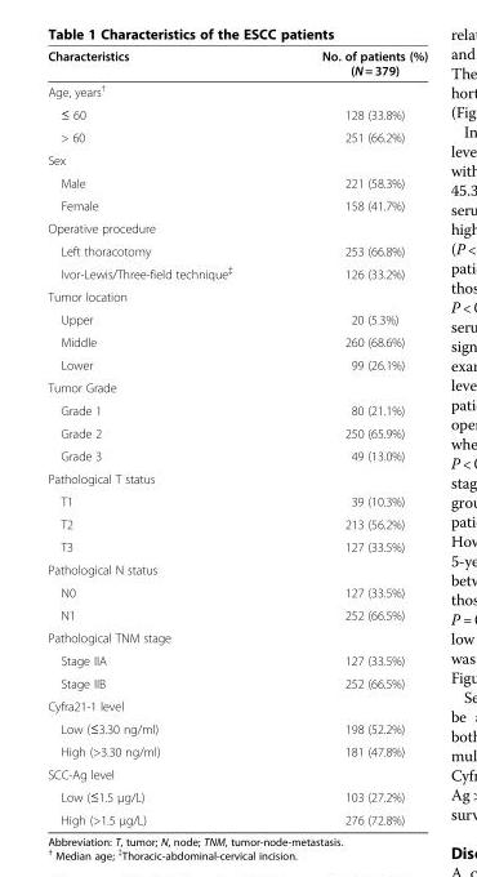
<table><thead><tr><td>Characteristics</td><td>No. of patients (%) (N = 379)</td></tr></thead><tbody><tr><td colspan="2">Age, years<sup>†</sup></td></tr><tr><td>≤ 60</td><td>128 (33.8%)</td></tr><tr><td>&gt; 60</td><td>251 (66.2%)</td></tr><tr><td colspan="2">Sex</td></tr><tr><td>Male</td><td>221 (58.3%)</td></tr><tr><td>Female</td><td>158 (41.7%)</td></tr><tr><td colspan="2">Operative procedure</td></tr><tr><td>Left thoracotomy</td><td>253 (66.8%)</td></tr><tr><td>Ivor-Lewis/Three-field technique<sup>‡</sup></td><td>126 (33.2%)</td></tr><tr><td colspan="2">Tumor location</td></tr><tr><td>Upper</td><td>20 (5.3%)</td></tr><tr><td>Middle</td><td>260 (68.6%)</td></tr><tr><td>Lower</td><td>99 (26.1%)</td></tr><tr><td colspan="2">Tumor Grade</td></tr><tr><td>Grade 1</td><td>80 (21.1%)</td></tr><tr><td>Grade 2</td><td>250 (65.9%)</td></tr><tr><td>Grade 3</td><td>49 (13.0%)</td></tr><tr><td colspan="2">Pathological T status</td></tr><tr><td>T1</td><td>39 (10.3%)</td></tr><tr><td>T2</td><td>213 (56.2%)</td></tr><tr><td>T3</td><td>127 (33.5%)</td></tr><tr><td colspan="2">Pathological N status</td></tr><tr><td>N0</td><td>127 (33.5%)</td></tr><tr><td>N1</td><td>252 (66.5%)</td></tr><tr><td colspan="2">Pathological TNM stage</td></tr><tr><td>Stage IIA</td><td>127 (33.5%)</td></tr><tr><td>Stage IIB</td><td>252 (66.5%)</td></tr><tr><td colspan="2">Cyfra21-1 level</td></tr><tr><td>Low (≤3.30 ng/ml)</td><td>198 (52.2%)</td></tr><tr><td>High (&gt;3.30 ng/ml)</td><td>181 (47.8%)</td></tr><tr><td colspan="2">SCC-Ag level</td></tr><tr><td>Low (≤1.5 μg/L)</td><td>103 (27.2%)</td></tr><tr><td>High (&gt;1.5 μg/L)</td><td>276 (72.8%)</td></tr></tbody></table>